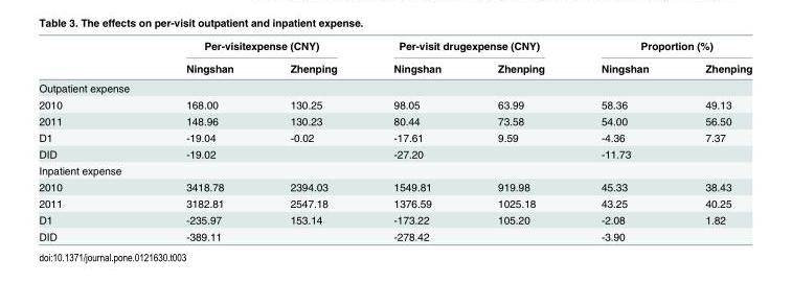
<table><thead><tr><td rowspan="2"></td><td colspan="2">Per-visitexpense (CNY)</td><td colspan="2">Per-visit drugexpense (CNY)</td><td colspan="2">Proportion (%)</td></tr><tr><td>Ningshan</td><td>Zhenping</td><td>Ningshan</td><td>Zhenping</td><td>Ningshan</td><td>Zhenping</td></tr></thead><tbody><tr><td colspan="7">Outpatient expense</td></tr><tr><td>2010</td><td>168.00</td><td>130.25</td><td>98.05</td><td>63.99</td><td>58.36</td><td>49.13</td></tr><tr><td>2011</td><td>148.96</td><td>130.23</td><td>80.44</td><td>73.58</td><td>54.00</td><td>56.50</td></tr><tr><td>D1</td><td>-19.04</td><td>-0.02</td><td>-17.61</td><td>9.59</td><td>-4.36</td><td>7.37</td></tr><tr><td>DID</td><td colspan="2">-19.02</td><td colspan="2">-27.20</td><td colspan="2">-11.73</td></tr><tr><td colspan="7">Inpatient expense</td></tr><tr><td>2010</td><td>3418.78</td><td>2394.03</td><td>1549.81</td><td>919.98</td><td>45.33</td><td>38.43</td></tr><tr><td>2011</td><td>3182.81</td><td>2547.18</td><td>1376.59</td><td>1025.18</td><td>43.25</td><td>40.25</td></tr><tr><td>D1</td><td>-235.97</td><td>153.14</td><td>-173.22</td><td>105.20</td><td>-2.08</td><td>1.82</td></tr><tr><td>DID</td><td colspan="2">-389.11</td><td colspan="2">-278.42</td><td colspan="2">-3.90</td></tr></tbody></table>